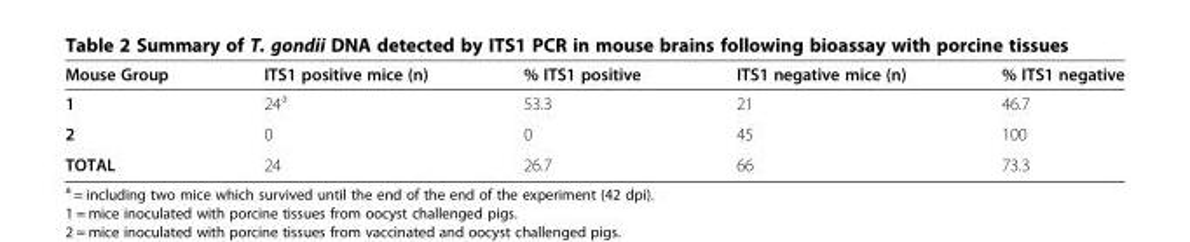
<table><thead><tr><td>Mouse Group</td><td>ITS1 positive mice (n)</td><td>% ITS1 positive</td><td>ITS1 negative mice (n)</td><td>% ITS1 negative</td></tr></thead><tbody><tr><td>1</td><td>24<sup>a</sup></td><td>53.3</td><td>21</td><td>46.7</td></tr><tr><td>2</td><td>0</td><td>0</td><td>45</td><td>100</td></tr><tr><td>TOTAL</td><td>24</td><td>26.7</td><td>66</td><td>73.3</td></tr></tbody></table>